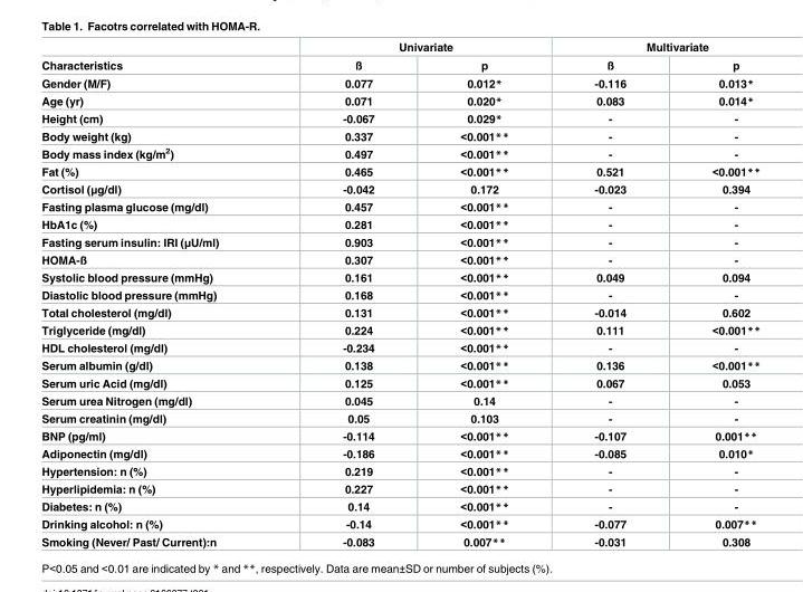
<table><thead><tr><td rowspan="2">Characteristics</td><td colspan="2">Univariate</td><td colspan="2">Multivariate</td></tr><tr><td>ß</td><td>p</td><td>ß</td><td>p</td></tr></thead><tbody><tr><td>Gender (M/F)</td><td>0.077</td><td>0.012*</td><td>-0.116</td><td>0.013*</td></tr><tr><td>Age (yr)</td><td>0.071</td><td>0.020*</td><td>0.083</td><td>0.014*</td></tr><tr><td>Height (cm)</td><td>-0.067</td><td>0.029*</td><td>-</td><td>-</td></tr><tr><td>Body weight (kg)</td><td>0.337</td><td>&lt;0.001**</td><td>-</td><td>-</td></tr><tr><td>Body mass index (kg/m<sup>2</sup>)</td><td>0.497</td><td>&lt;0.001**</td><td>-</td><td>-</td></tr><tr><td>Fat (%)</td><td>0.465</td><td>&lt;0.001**</td><td>0.521</td><td>&lt;0.001**</td></tr><tr><td>Cortisol (μg/dl)</td><td>-0.042</td><td>0.172</td><td>-0.023</td><td>0.394</td></tr><tr><td>Fasting plasma glucose (mg/dl)</td><td>0.457</td><td>&lt;0.001**</td><td>-</td><td>-</td></tr><tr><td>HbA1c (%)</td><td>0.281</td><td>&lt;0.001**</td><td>-</td><td>-</td></tr><tr><td>Fasting serum insulin: IRI (μU/ml)</td><td>0.903</td><td>&lt;0.001**</td><td>-</td><td>-</td></tr><tr><td>HOMA-ß</td><td>0.307</td><td>&lt;0.001**</td><td>-</td><td>-</td></tr><tr><td>Systolic blood pressure (mmHg)</td><td>0.161</td><td>&lt;0.001**</td><td>0.049</td><td>0.094</td></tr><tr><td>Diastolic blood pressure (mmHg)</td><td>0.168</td><td>&lt;0.001**</td><td>-</td><td>-</td></tr><tr><td>Total cholesterol (mg/dl)</td><td>0.131</td><td>&lt;0.001**</td><td>-0.014</td><td>0.602</td></tr><tr><td>Triglyceride (mg/dl)</td><td>0.224</td><td>&lt;0.001**</td><td>0.111</td><td>&lt;0.001**</td></tr><tr><td>HDL cholesterol (mg/dl)</td><td>-0.234</td><td>&lt;0.001**</td><td>-</td><td>-</td></tr><tr><td>Serum albumin (g/dl)</td><td>0.138</td><td>&lt;0.001**</td><td>0.136</td><td>&lt;0.001**</td></tr><tr><td>Serum uric Acid (mg/dl)</td><td>0.125</td><td>&lt;0.001**</td><td>0.067</td><td>0.053</td></tr><tr><td>Serum urea Nitrogen (mg/dl)</td><td>0.045</td><td>0.14</td><td>-</td><td>-</td></tr><tr><td>Serum creatinin (mg/dl)</td><td>0.05</td><td>0.103</td><td>-</td><td>-</td></tr><tr><td>BNP (pg/ml)</td><td>-0.114</td><td>&lt;0.001**</td><td>-0.107</td><td>0.001**</td></tr><tr><td>Adiponectin (mg/dl)</td><td>-0.186</td><td>&lt;0.001**</td><td>-0.085</td><td>0.010*</td></tr><tr><td>Hypertension: n (%)</td><td>0.219</td><td>&lt;0.001**</td><td>-</td><td>-</td></tr><tr><td>Hyperlipidemia: n (%)</td><td>0.227</td><td>&lt;0.001**</td><td>-</td><td>-</td></tr><tr><td>Diabetes: n (%)</td><td>0.14</td><td>&lt;0.001**</td><td>-</td><td>-</td></tr><tr><td>Drinking alcohol: n (%)</td><td>-0.14</td><td>&lt;0.001**</td><td>-0.077</td><td>0.007**</td></tr><tr><td>Smoking (Never/ Past/ Current):n</td><td>-0.083</td><td>0.007**</td><td>-0.031</td><td>0.308</td></tr></tbody></table>